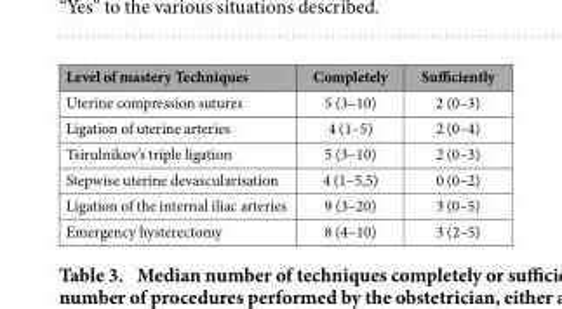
<table><thead><tr><td>Level of mastery Techniques</td><td>Completely</td><td>Sufficiently</td></tr></thead><tbody><tr><td>Uterine compression sutures</td><td>5 (3–10)</td><td>2 (0–3)</td></tr><tr><td>Ligation of uterine arteries</td><td>4 (1–5)</td><td>2 (0–4)</td></tr><tr><td>Tsirulnikov’s triple ligation</td><td>5 (3–10)</td><td>2 (0–3)</td></tr><tr><td>Stepwise uterine devascularisation</td><td>4 (1–5,5)</td><td>0 (0–2)</td></tr><tr><td>Ligation of the internal iliac arteries</td><td>9 (3–20)</td><td>3 (0–5)</td></tr><tr><td>Emergency hysterectomy</td><td>8 (4–10)</td><td>3 (2–5)</td></tr></tbody></table>